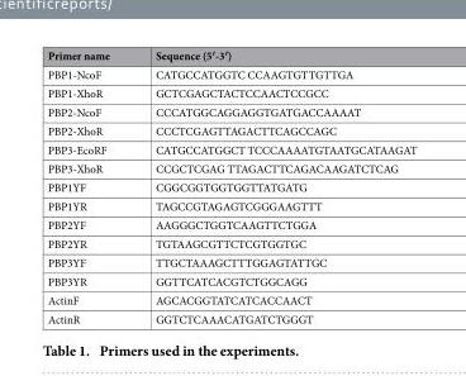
<table><thead><tr><td>Primer name</td><td>Sequence (5′-3′)</td></tr></thead><tbody><tr><td>PBP1-NcoF</td><td>CATGCCATGGTC CCAAGTGTTGTTGA</td></tr><tr><td>PBP1-XhoR</td><td>GCTCGAGCTACTCCAACTCCGCC</td></tr><tr><td>PBP2-NcoF</td><td>CCCATGGCAGGAGGTGATGACCAAAAT</td></tr><tr><td>PBP2-XhoR</td><td>CCCTCGAGTTAGACTTCAGCCAGC</td></tr><tr><td>PBP3-EcoRF</td><td>CATGCCATGGCT TCCCAAAATGTAATGCATAAGAT</td></tr><tr><td>PBP3-XhoR</td><td>CCGCTCGAG TTAGACTTCAGACAAGATCTCAG</td></tr><tr><td>PBP1YF</td><td>CGGCGGTGGTGGTTATGATG</td></tr><tr><td>PBP1YR</td><td>TAGCCGTAGAGTCGGGAAGTTT</td></tr><tr><td>PBP2YF</td><td>AAGGGCTGGTCAAGTTCTGGA</td></tr><tr><td>PBP2YR</td><td>TGTAAGCGTTCTCGTGGTGC</td></tr><tr><td>PBP3YF</td><td>TTGCTAAAGCTTTGGAGTATTGC</td></tr><tr><td>PBP3YR</td><td>GGTTCATCACGTCTGGCAGG</td></tr><tr><td>ActinF</td><td>AGCACGGTATCATCACCAACT</td></tr><tr><td>ActinR</td><td>GGTCTCAAACATGATCTGGGT</td></tr></tbody></table>